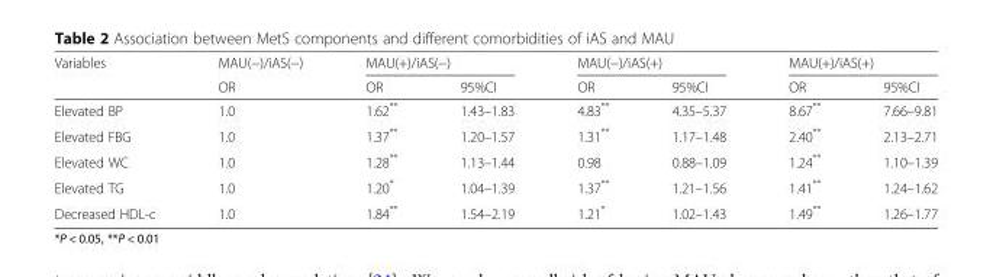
<table><thead><tr><td rowspan="2">Variables</td><td rowspan="2">MAU(−)/iAS(−) OR</td><td colspan="2">MAU(+)/iAS(−)</td><td colspan="2">MAU(−)/iAS(+)</td><td colspan="2">MAU(+)/iAS(+)</td></tr><tr><td>OR</td><td>95%CI</td><td>OR</td><td>95%CI</td><td>OR</td><td>95%CI</td></tr></thead><tbody><tr><td>Elevated BP</td><td>1.0</td><td>1.62**</td><td>1.43–1.83</td><td>4.83**</td><td>4.35–5.37</td><td>8.67**</td><td>7.66–9.81</td></tr><tr><td>Elevated FBG</td><td>1.0</td><td>1.37**</td><td>1.20–1.57</td><td>1.31**</td><td>1.17–1.48</td><td>2.40**</td><td>2.13–2.71</td></tr><tr><td>Elevated WC</td><td>1.0</td><td>1.28**</td><td>1.13–1.44</td><td>0.98</td><td>0.88–1.09</td><td>1.24**</td><td>1.10–1.39</td></tr><tr><td>Elevated TG</td><td>1.0</td><td>1.20*</td><td>1.04–1.39</td><td>1.37**</td><td>1.21–1.56</td><td>1.41**</td><td>1.24–1.62</td></tr><tr><td>Decreased HDL-c</td><td>1.0</td><td>1.84**</td><td>1.54–2.19</td><td>1.21*</td><td>1.02–1.43</td><td>1.49**</td><td>1.26–1.77</td></tr></tbody></table>